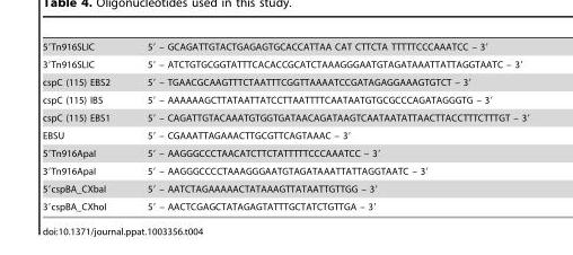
<table><tbody><tr><td>5′Tn916SLIC</td><td>5′ – GCAGATTGTACTGAGAGTGCACCATTAA CAT CTTCTA TTTTTCCCAAATCC – 3′</td></tr><tr><td>3′Tn916SLIC</td><td>5′ – ATCTGTGCGGTATTTCACACCGCATCTAAAGGGAATGTAGATAAATTATTAGGTAATC – 3′</td></tr><tr><td>cspC (115) EBS2</td><td>5′ – TGAACGCAAGTTTCTAATTTCGGTTAAAATCCGATAGAGGAAAGTGTCT – 3′</td></tr><tr><td>cspC (115) IBS</td><td>5′ – AAAAAAGCTTATAATTATCCTTAATTTTCAATAATGTGCGCCCAGATAGGGTG – 3′</td></tr><tr><td>cspC (115) EBS1</td><td>5′ – CAGATTGTACAAATGTGGTGATAACAGATAAGTCAATAATATTAACTTACCTTTCTTTGT – 3′</td></tr><tr><td>EBSU</td><td>5′ – CGAAATTAGAAACTTGCGTTCAGTAAAC – 3′</td></tr><tr><td>5′Tn916ApaI</td><td>5′ – AAGGGCCCTAACATCTTCTATTTTTCCCAAATCC – 3′</td></tr><tr><td>3′Tn916ApaI</td><td>5′ – AAGGGCCCCTAAAGGGAATGTAGATAAATTATTAGGTAATC – 3′</td></tr><tr><td>5′cspBA_CXbaI</td><td>5′ – AATCTAGAAAAACTATAAAGTTATAATTGTTGG – 3′</td></tr><tr><td>3′cspBA_CXhoI</td><td>5′ – AACTCGAGCTATAGAGTATTTGCTATCTGTTGA – 3′</td></tr></tbody></table>